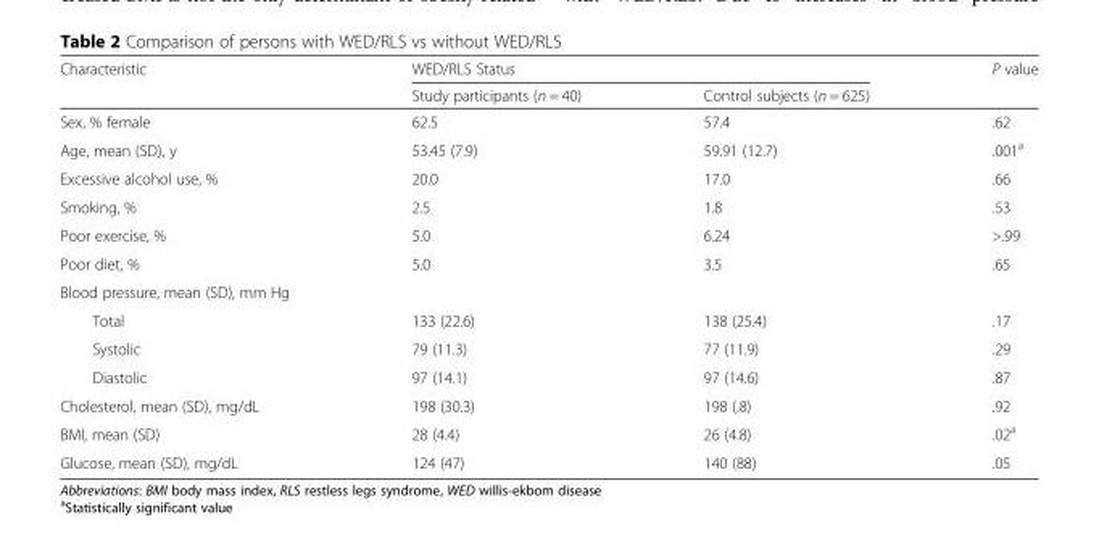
<table><thead><tr><td rowspan="2">Characteristic</td><td colspan="2">WED/RLS Status</td><td rowspan="2">P value</td></tr><tr><td>Study participants (n = 40)</td><td>Control subjects (n = 625)</td></tr></thead><tbody><tr><td>Sex, % female</td><td>62.5</td><td>57.4</td><td>.62</td></tr><tr><td>Age, mean (SD), y</td><td>53.45 (7.9)</td><td>59.91 (12.7)</td><td>.001<sup>a</sup></td></tr><tr><td>Excessive alcohol use, %</td><td>20.0</td><td>17.0</td><td>.66</td></tr><tr><td>Smoking, %</td><td>2.5</td><td>1.8</td><td>.53</td></tr><tr><td>Poor exercise, %</td><td>5.0</td><td>6.24</td><td>&gt;.99</td></tr><tr><td>Poor diet, %</td><td>5.0</td><td>3.5</td><td>.65</td></tr><tr><td colspan="4">Blood pressure, mean (SD), mm Hg</td></tr><tr><td>Total</td><td>133 (22.6)</td><td>138 (25.4)</td><td>.17</td></tr><tr><td>Systolic</td><td>79 (11.3)</td><td>77 (11.9)</td><td>.29</td></tr><tr><td>Diastolic</td><td>97 (14.1)</td><td>97 (14.6)</td><td>.87</td></tr><tr><td>Cholesterol, mean (SD), mg/dL</td><td>198 (30.3)</td><td>198 (.8)</td><td>.92</td></tr><tr><td>BMI, mean (SD)</td><td>28 (4.4)</td><td>26 (4.8)</td><td>.02<sup>a</sup></td></tr><tr><td>Glucose, mean (SD), mg/dL</td><td>124 (47)</td><td>140 (88)</td><td>.05</td></tr></tbody></table>